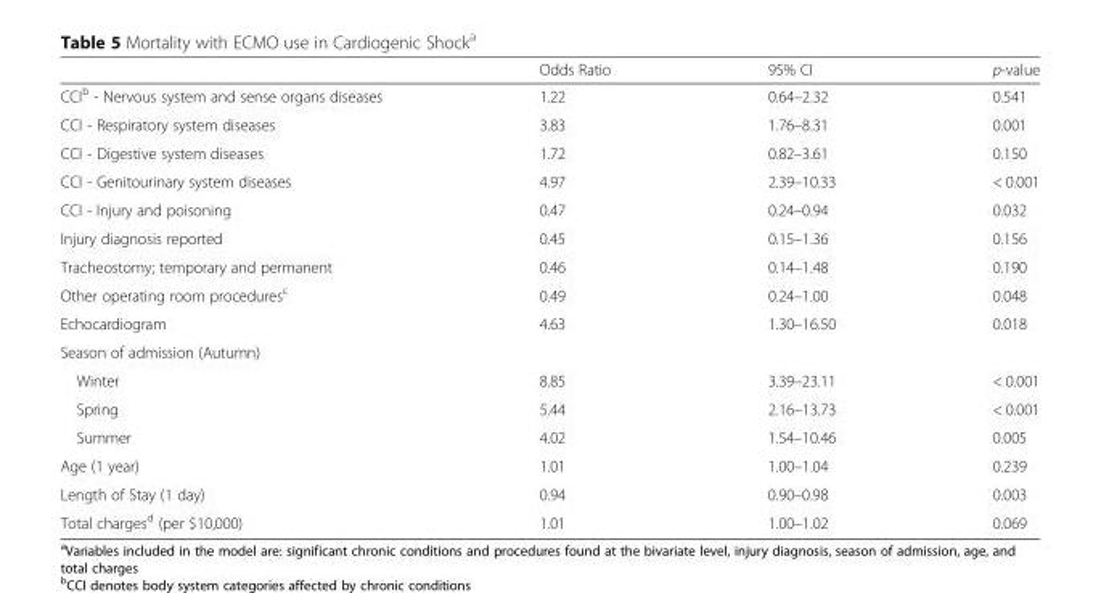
<table><thead><tr><td></td><td>Odds Ratio</td><td>95% CI</td><td>p-value</td></tr></thead><tbody><tr><td>CCI<sup>b</sup> - Nervous system and sense organs diseases</td><td>1.22</td><td>0.64–2.32</td><td>0.541</td></tr><tr><td>CCI - Respiratory system diseases</td><td>3.83</td><td>1.76–8.31</td><td>0.001</td></tr><tr><td>CCI - Digestive system diseases</td><td>1.72</td><td>0.82–3.61</td><td>0.150</td></tr><tr><td>CCI - Genitourinary system diseases</td><td>4.97</td><td>2.39–10.33</td><td>&lt; 0.001</td></tr><tr><td>CCI - Injury and poisoning</td><td>0.47</td><td>0.24–0.94</td><td>0.032</td></tr><tr><td>Injury diagnosis reported</td><td>0.45</td><td>0.15–1.36</td><td>0.156</td></tr><tr><td>Tracheostomy; temporary and permanent</td><td>0.46</td><td>0.14–1.48</td><td>0.190</td></tr><tr><td>Other operating room procedures<sup>c</sup></td><td>0.49</td><td>0.24–1.00</td><td>0.048</td></tr><tr><td>Echocardiogram</td><td>4.63</td><td>1.30–16.50</td><td>0.018</td></tr><tr><td colspan="4">Season of admission (Autumn)</td></tr><tr><td>Winter</td><td>8.85</td><td>3.39–23.11</td><td>&lt; 0.001</td></tr><tr><td>Spring</td><td>5.44</td><td>2.16–13.73</td><td>&lt; 0.001</td></tr><tr><td>Summer</td><td>4.02</td><td>1.54–10.46</td><td>0.005</td></tr><tr><td>Age (1 year)</td><td>1.01</td><td>1.00–1.04</td><td>0.239</td></tr><tr><td>Length of Stay (1 day)</td><td>0.94</td><td>0.90–0.98</td><td>0.003</td></tr><tr><td>Total charges<sup>d</sup> (per $10,000)</td><td>1.01</td><td>1.00–1.02</td><td>0.069</td></tr></tbody></table>